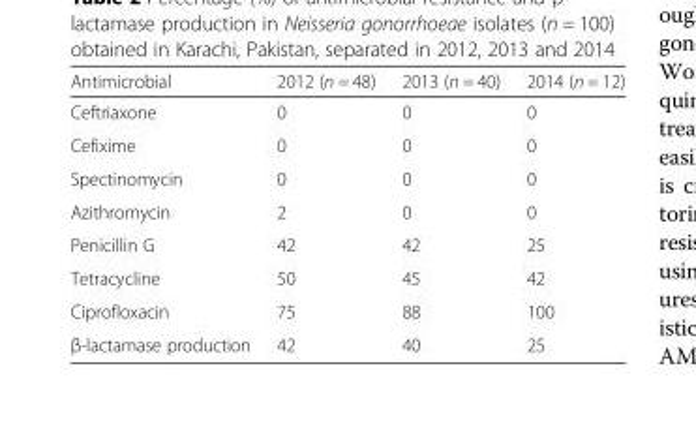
<table><thead><tr><td>Antimicrobial</td><td>2012 (n = 48)</td><td>2013 (n = 40)</td><td>2014 (n = 12)</td></tr></thead><tbody><tr><td>Ceftriaxone</td><td>0</td><td>0</td><td>0</td></tr><tr><td>Cefixime</td><td>0</td><td>0</td><td>0</td></tr><tr><td>Spectinomycin</td><td>0</td><td>0</td><td>0</td></tr><tr><td>Azithromycin</td><td>2</td><td>0</td><td>0</td></tr><tr><td>Penicillin G</td><td>42</td><td>42</td><td>25</td></tr><tr><td>Tetracycline</td><td>50</td><td>45</td><td>42</td></tr><tr><td>Ciprofloxacin</td><td>75</td><td>88</td><td>100</td></tr><tr><td>β-lactamase production</td><td>42</td><td>40</td><td>25</td></tr></tbody></table>